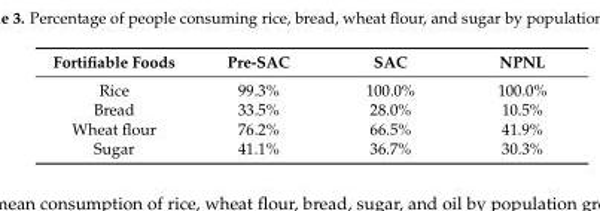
<table><thead><tr><td>Fortifiable Foods</td><td>Pre-SAC</td><td>SAC</td><td>NPNL</td></tr></thead><tbody><tr><td>Rice</td><td>99.3%</td><td>100.0%</td><td>100.0%</td></tr><tr><td>Bread</td><td>33.5%</td><td>28.0%</td><td>10.5%</td></tr><tr><td>Wheat flour</td><td>76.2%</td><td>66.5%</td><td>41.9%</td></tr><tr><td>Sugar</td><td>41.1%</td><td>36.7%</td><td>30.3%</td></tr></tbody></table>